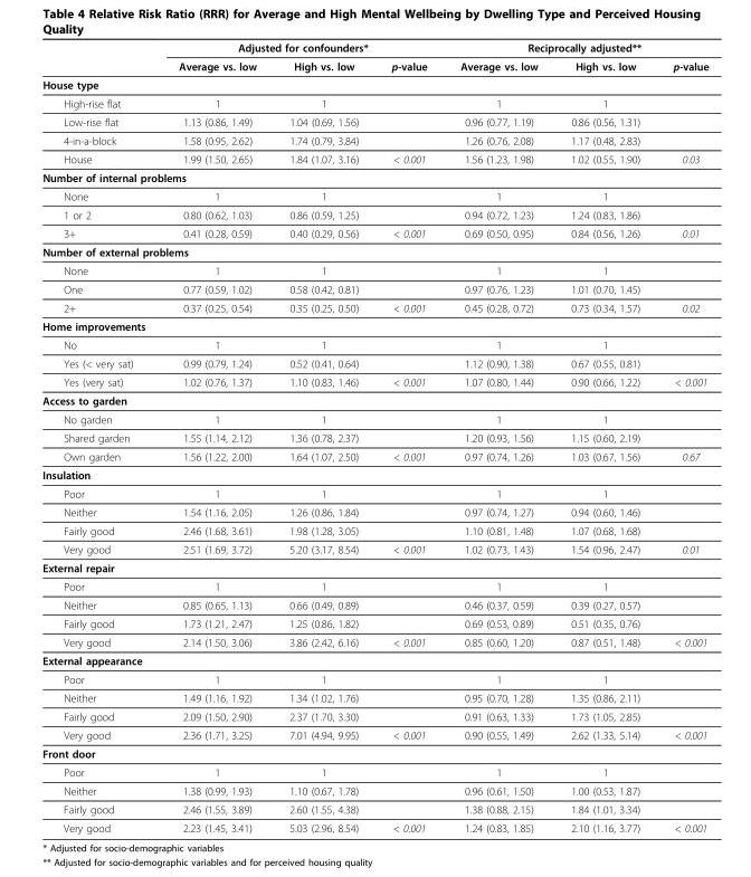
<table><thead><tr><td rowspan="2"></td><td colspan="3">Adjusted for confounders*</td><td colspan="3">Reciprocally adjusted**</td></tr><tr><td>Average vs. low</td><td>High vs. low</td><td>p-value</td><td>Average vs. low</td><td>High vs. low</td><td>p-value</td></tr></thead><tbody><tr><td colspan="7">House type</td></tr><tr><td>High-rise flat</td><td>1</td><td>1</td><td></td><td>1</td><td>1</td><td></td></tr><tr><td>Low-rise flat</td><td>1.13 (0.86, 1.49)</td><td>1.04 (0.69, 1.56)</td><td></td><td>0.96 (0.77, 1.19)</td><td>0.86 (0.56, 1.31)</td><td></td></tr><tr><td>4-in-a-block</td><td>1.58 (0.95, 2.62)</td><td>1.74 (0.79, 3.84)</td><td></td><td>1.26 (0.76, 2.08)</td><td>1.17 (0.48, 2.83)</td><td></td></tr><tr><td>House</td><td>1.99 (1.50, 2.65)</td><td>1.84 (1.07, 3.16)</td><td>&lt; 0.001</td><td>1.56 (1.23, 1.98)</td><td>1.02 (0.55, 1.90)</td><td>0.03</td></tr><tr><td colspan="7">Number of internal problems</td></tr><tr><td>None</td><td>1</td><td>1</td><td></td><td>1</td><td>1</td><td></td></tr><tr><td>1 or 2</td><td>0.80 (0.62, 1.03)</td><td>0.86 (0.59, 1.25)</td><td></td><td>0.94 (0.72, 1.23)</td><td>1.24 (0.83, 1.86)</td><td></td></tr><tr><td>3+</td><td>0.41 (0.28, 0.59)</td><td>0.40 (0.29, 0.56)</td><td>&lt; 0.001</td><td>0.69 (0.50, 0.95)</td><td>0.84 (0.56, 1.26)</td><td>0.01</td></tr><tr><td colspan="7">Number of external problems</td></tr><tr><td>None</td><td>1</td><td>1</td><td></td><td>1</td><td>1</td><td></td></tr><tr><td>One</td><td>0.77 (0.59, 1.02)</td><td>0.58 (0.42, 0.81)</td><td></td><td>0.97 (0.76, 1.23)</td><td>1.01 (0.70, 1.45)</td><td></td></tr><tr><td>2+</td><td>0.37 (0.25, 0.54)</td><td>0.35 (0.25, 0.50)</td><td>&lt; 0.001</td><td>0.45 (0.28, 0.72)</td><td>0.73 (0.34, 1.57)</td><td>0.02</td></tr><tr><td colspan="7">Home improvements</td></tr><tr><td>No</td><td>1</td><td>1</td><td></td><td>1</td><td>1</td><td></td></tr><tr><td>Yes (&lt; very sat)</td><td>0.99 (0.79, 1.24)</td><td>0.52 (0.41, 0.64)</td><td></td><td>1.12 (0.90, 1.38)</td><td>0.67 (0.55, 0.81)</td><td></td></tr><tr><td>Yes (very sat)</td><td>1.02 (0.76, 1.37)</td><td>1.10 (0.83, 1.46)</td><td>&lt; 0.001</td><td>1.07 (0.80, 1.44)</td><td>0.90 (0.66, 1.22)</td><td>&lt; 0.001</td></tr><tr><td colspan="7">Access to garden</td></tr><tr><td>No garden</td><td>1</td><td>1</td><td></td><td>1</td><td>1</td><td></td></tr><tr><td>Shared garden</td><td>1.55 (1.14, 2.12)</td><td>1.36 (0.78, 2.37)</td><td></td><td>1.20 (0.93, 1.56)</td><td>1.15 (0.60, 2.19)</td><td></td></tr><tr><td>Own garden</td><td>1.56 (1.22, 2.00)</td><td>1.64 (1.07, 2.50)</td><td>&lt; 0.001</td><td>0.97 (0.74, 1.26)</td><td>1.03 (0.67, 1.56)</td><td>0.67</td></tr><tr><td colspan="7">Insulation</td></tr><tr><td>Poor</td><td>1</td><td>1</td><td></td><td>1</td><td>1</td><td></td></tr><tr><td>Neither</td><td>1.54 (1.16, 2.05)</td><td>1.26 (0.86, 1.84)</td><td></td><td>0.97 (0.74, 1.27)</td><td>0.94 (0.60, 1.46)</td><td></td></tr><tr><td>Fairly good</td><td>2.46 (1.68, 3.61)</td><td>1.98 (1.28, 3.05)</td><td></td><td>1.10 (0.81, 1.48)</td><td>1.07 (0.68, 1.68)</td><td></td></tr><tr><td>Very good</td><td>2.51 (1.69, 3.72)</td><td>5.20 (3.17, 8.54)</td><td>&lt; 0.001</td><td>1.02 (0.73, 1.43)</td><td>1.54 (0.96, 2.47)</td><td>0.01</td></tr><tr><td colspan="7">External repair</td></tr><tr><td>Poor</td><td>1</td><td>1</td><td></td><td>1</td><td>1</td><td></td></tr><tr><td>Neither</td><td>0.85 (0.65, 1.13)</td><td>0.66 (0.49, 0.89)</td><td></td><td>0.46 (0.37, 0.59)</td><td>0.39 (0.27, 0.57)</td><td></td></tr><tr><td>Fairly good</td><td>1.73 (1.21, 2.47)</td><td>1.25 (0.86, 1.82)</td><td></td><td>0.69 (0.53, 0.89)</td><td>0.51 (0.35, 0.76)</td><td></td></tr><tr><td>Very good</td><td>2.14 (1.50, 3.06)</td><td>3.86 (2.42, 6.16)</td><td>&lt; 0.001</td><td>0.85 (0.60, 1.20)</td><td>0.87 (0.51, 1.48)</td><td>&lt; 0.001</td></tr><tr><td colspan="7">External appearance</td></tr><tr><td>Poor</td><td>1</td><td>1</td><td></td><td>1</td><td>1</td><td></td></tr><tr><td>Neither</td><td>1.49 (1.16, 1.92)</td><td>1.34 (1.02, 1.76)</td><td></td><td>0.95 (0.70, 1.28)</td><td>1.35 (0.86, 2.11)</td><td></td></tr><tr><td>Fairly good</td><td>2.09 (1.50, 2.90)</td><td>2.37 (1.70, 3.30)</td><td></td><td>0.91 (0.63, 1.33)</td><td>1.73 (1.05, 2.85)</td><td></td></tr><tr><td>Very good</td><td>2.36 (1.71, 3.25)</td><td>7.01 (4.94, 9.95)</td><td>&lt; 0.001</td><td>0.90 (0.55, 1.49)</td><td>2.62 (1.33, 5.14)</td><td>&lt; 0.001</td></tr><tr><td colspan="7">Front door</td></tr><tr><td>Poor</td><td>1</td><td>1</td><td></td><td>1</td><td>1</td><td></td></tr><tr><td>Neither</td><td>1.38 (0.99, 1.93)</td><td>1.10 (0.67, 1.78)</td><td></td><td>0.96 (0.61, 1.50)</td><td>1.00 (0.53, 1.87)</td><td></td></tr><tr><td>Fairly good</td><td>2.46 (1.55, 3.89)</td><td>2.60 (1.55, 4.38)</td><td></td><td>1.38 (0.88, 2.15)</td><td>1.84 (1.01, 3.34)</td><td></td></tr><tr><td>Very good</td><td>2.23 (1.45, 3.41)</td><td>5.03 (2.96, 8.54)</td><td>&lt; 0.001</td><td>1.24 (0.83, 1.85)</td><td>2.10 (1.16, 3.77)</td><td>&lt; 0.001</td></tr></tbody></table>